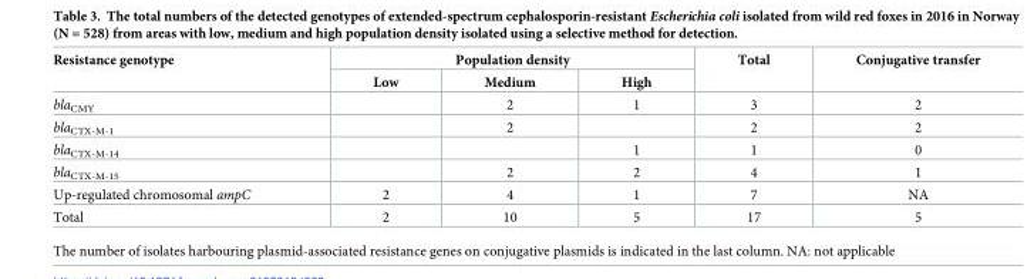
<table><thead><tr><td rowspan="2">Resistance genotype</td><td colspan="3">Population density</td><td rowspan="2">Total</td><td rowspan="2">Conjugative transfer</td></tr><tr><td>Low</td><td>Medium</td><td>High</td></tr></thead><tbody><tr><td>bla<sub>CMY</sub></td><td></td><td>2</td><td>1</td><td>3</td><td>2</td></tr><tr><td>bla<sub>CTX-M-1</sub></td><td></td><td>2</td><td></td><td>2</td><td>2</td></tr><tr><td>bla<sub>CTX-M-14</sub></td><td></td><td></td><td>1</td><td>1</td><td>0</td></tr><tr><td>bla<sub>CTX-M-15</sub></td><td></td><td>2</td><td>2</td><td>4</td><td>1</td></tr><tr><td>Up-regulated chromosomal ampC</td><td>2</td><td>4</td><td>1</td><td>7</td><td>NA</td></tr><tr><td>Total</td><td>2</td><td>10</td><td>5</td><td>17</td><td>5</td></tr></tbody></table>